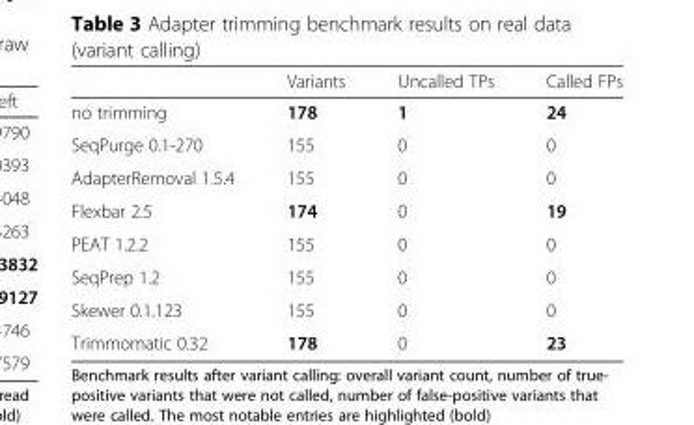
<table><thead><tr><td></td><td>Variants</td><td>Uncalled TPs</td><td>Called FPs</td></tr></thead><tbody><tr><td>no trimming</td><td>178</td><td>1</td><td>24</td></tr><tr><td>SeqPurge 0.1-270</td><td>155</td><td>0</td><td>0</td></tr><tr><td>AdapterRemoval 1.5.4</td><td>155</td><td>0</td><td>0</td></tr><tr><td>Flexbar 2.5</td><td>174</td><td>0</td><td>19</td></tr><tr><td>PEAT 1.2.2</td><td>155</td><td>0</td><td>0</td></tr><tr><td>SeqPrep 1.2</td><td>155</td><td>0</td><td>0</td></tr><tr><td>Skewer 0.1.123</td><td>155</td><td>0</td><td>0</td></tr><tr><td>Trimmomatic 0.32</td><td>178</td><td>0</td><td>23</td></tr></tbody></table>